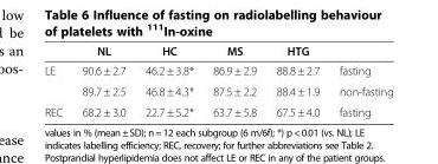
<table><thead><tr><td></td><td>NL</td><td>HC</td><td>MS</td><td>HTG</td><td></td></tr></thead><tbody><tr><td rowspan="2">LE</td><td>90.6 ± 2.7</td><td>46.2 ± 3.8*</td><td>86.9 ± 2.9</td><td>88.8 ± 2.7</td><td>fasting</td></tr><tr><td>89.7 ± 2.5</td><td>46.8 ± 4.3*</td><td>87.5 ± 2.2</td><td>88.4 ± 1.9</td><td>non-fasting</td></tr><tr><td>REC</td><td>68.2 ± 3.0</td><td>22.7 ± 5.2*</td><td>63.7 ± 5.8</td><td>67.5 ± 4.0</td><td>fasting</td></tr></tbody></table>